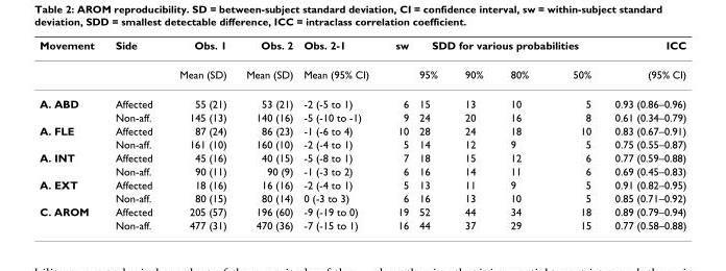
<table><thead><tr><td rowspan="2">Movement</td><td rowspan="2">Side</td><td rowspan="2">Obs. 1 Mean (SD)</td><td rowspan="2">Obs. 2 Mean (SD)</td><td rowspan="2">Obs. 2-1 Mean (95% CI)</td><td rowspan="2">sw</td><td colspan="4">SDD for various probabilities</td><td rowspan="2">ICC (95% CI)</td></tr><tr><td>95%</td><td>90%</td><td>80%</td><td>50%</td></tr></thead><tbody><tr><td rowspan="2">A. ABD</td><td>Affected</td><td>55 (21)</td><td>53 (21)</td><td>-2 (-5 to 1)</td><td>6</td><td>15</td><td>13</td><td>10</td><td>5</td><td>0.93 (0.86–0.96)</td></tr><tr><td>Non-aff.</td><td>145 (13)</td><td>140 (16)</td><td>-5 (-10 to -1)</td><td>9</td><td>24</td><td>20</td><td>16</td><td>8</td><td>0.61 (0.34–0.79)</td></tr><tr><td rowspan="2">A. FLE</td><td>Affected</td><td>87 (24)</td><td>86 (23)</td><td>-1 (-6 to 4)</td><td>10</td><td>28</td><td>24</td><td>18</td><td>10</td><td>0.83 (0.67–0.91)</td></tr><tr><td>Non-aff.</td><td>161 (10)</td><td>160 (10)</td><td>-2 (-4 to 1)</td><td>5</td><td>14</td><td>12</td><td>9</td><td>5</td><td>0.75 (0.55–0.87)</td></tr><tr><td rowspan="2">A. INT</td><td>Affected</td><td>45 (16)</td><td>40 (15)</td><td>-5 (-8 to 1)</td><td>7</td><td>18</td><td>15</td><td>12</td><td>6</td><td>0.77 (0.59–0.88)</td></tr><tr><td>Non-aff.</td><td>90 (11)</td><td>90 (9)</td><td>-1 (-3 to 2)</td><td>6</td><td>16</td><td>14</td><td>11</td><td>6</td><td>0.69 (0.45–0.83)</td></tr><tr><td rowspan="2">A. EXT</td><td>Affected</td><td>18 (16)</td><td>16 (16)</td><td>-2 (-4 to 1)</td><td>5</td><td>13</td><td>11</td><td>9</td><td>5</td><td>0.91 (0.82–0.95)</td></tr><tr><td>Non-aff.</td><td>80 (15)</td><td>80 (14)</td><td>0 (-3 to 3)</td><td>6</td><td>16</td><td>13</td><td>10</td><td>5</td><td>0.85 (0.71–0.92)</td></tr><tr><td rowspan="2">C. AROM</td><td>Affected</td><td>205 (57)</td><td>196 (60)</td><td>-9 (-19 to 0)</td><td>19</td><td>52</td><td>44</td><td>34</td><td>18</td><td>0.89 (0.79–0.94)</td></tr><tr><td>Non-aff.</td><td>477 (31)</td><td>470 (36)</td><td>-7 (-15 to 1)</td><td>16</td><td>44</td><td>37</td><td>29</td><td>15</td><td>0.77 (0.58–0.88)</td></tr></tbody></table>